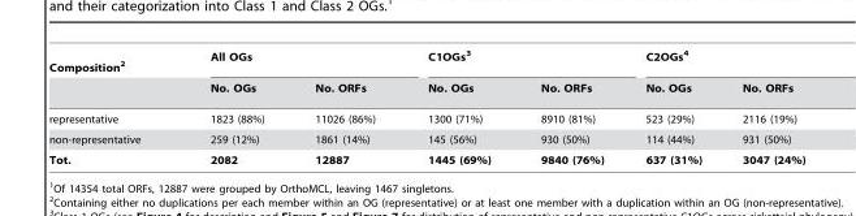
<table><thead><tr><td rowspan="2">Composition<sup>2</sup></td><td colspan="2">All OGs</td><td colspan="2">C1OGs<sup>3</sup></td><td colspan="2">C2OGs<sup>4</sup></td></tr><tr><td>No. OGs</td><td>No. ORFs</td><td>No. OGs</td><td>No. ORFs</td><td>No. OGs</td><td>No. ORFs</td></tr></thead><tbody><tr><td>representative</td><td>1823 (88%)</td><td>11026 (86%)</td><td>1300 (71%)</td><td>8910 (81%)</td><td>523 (29%)</td><td>2116 (19%)</td></tr><tr><td>non-representative</td><td>259 (12%)</td><td>1861 (14%)</td><td>145 (56%)</td><td>930 (50%)</td><td>114 (44%)</td><td>931 (50%)</td></tr><tr><td>Tot.</td><td>2082</td><td>12887</td><td>1445 (69%)</td><td>9840 (76%)</td><td>637 (31%)</td><td>3047 (24%)</td></tr></tbody></table>